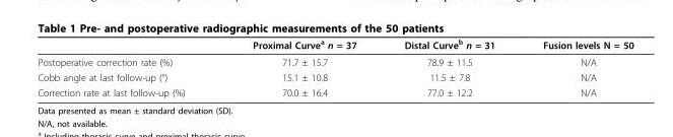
<table><thead><tr><td></td><td>Proximal Curve<sup>a</sup> n = 37</td><td>Distal Curve<sup>b</sup> n = 31</td><td>Fusion levels N = 50</td></tr></thead><tbody><tr><td>Postoperative correction rate (%)</td><td>71.7 ± 15.7</td><td>78.9 ± 11.5</td><td>N/A</td></tr><tr><td>Cobb angle at last follow-up (°)</td><td>15.1 ± 10.8</td><td>11.5 ± 7.8</td><td>N/A</td></tr><tr><td>Correction rate at last follow-up (%)</td><td>70.0 ± 16.4</td><td>77.0 ± 12.2</td><td>N/A</td></tr></tbody></table>